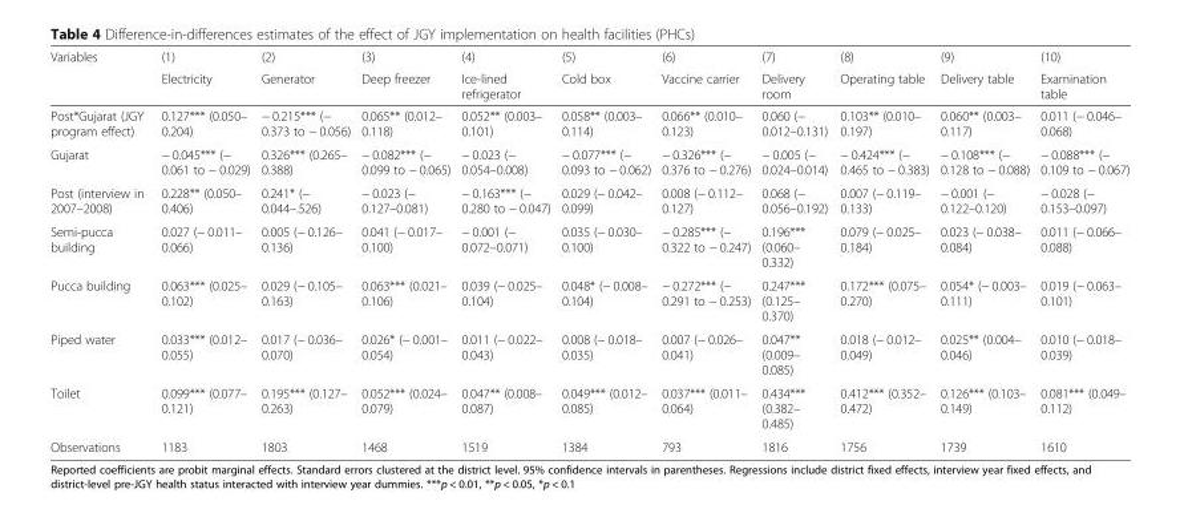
<table><thead><tr><td rowspan="2">Variables</td><td rowspan="2">(1) Electricity</td><td rowspan="2">(2) Generator</td><td rowspan="2">(3) Deep freezer</td><td rowspan="2">(4) Ice-lined refrigerator</td><td rowspan="2">(5) Cold box</td><td rowspan="2">(6) Vaccine carrier</td><td rowspan="2">(7) Delivery room</td><td rowspan="2">(8) Operating table</td><td rowspan="2">(9) Delivery table</td><td rowspan="2">(10) Examination table</td></tr><tr></tr></thead><tbody><tr><td>Post*Gujarat (JGY program effect)</td><td>0.127*** (0.050– 0.204)</td><td>− 0.215*** (− 0.373 to − 0.056)</td><td>0.065** (0.012– 0.118)</td><td>0.052** (0.003– 0.101)</td><td>0.058** (0.003– 0.114)</td><td>0.066** (0.010– 0.123)</td><td>0.060 (− 0.012–0.131)</td><td>0.103** (0.010– 0.197)</td><td>0.060** (0.003– 0.117)</td><td>0.011 (− 0.046– 0.068)</td></tr><tr><td>Gujarat</td><td>− 0.045*** (− 0.061 to − 0.029)</td><td>0.326*** (0.265– 0.388)</td><td>− 0.082*** (− 0.099 to − 0.065)</td><td>− 0.023 (− 0.054–0.008)</td><td>− 0.077*** (− 0.093 to − 0.062)</td><td>− 0.326*** (− 0.376 to − 0.276)</td><td>− 0.005 (− 0.024–0.014)</td><td>− 0.424*** (− 0.465 to − 0.383)</td><td>− 0.108*** (− 0.128 to − 0.088)</td><td>− 0.088*** (− 0.109 to − 0.067)</td></tr><tr><td>Post (interview in 2007–2008)</td><td>0.228** (0.050– 0.406)</td><td>0.241* (− 0.044–.526)</td><td>− 0.023 (− 0.127–0.081)</td><td>− 0.163*** (− 0.280 to − 0.047)</td><td>0.029 (− 0.042– 0.099)</td><td>0.008 (− 0.112– 0.127)</td><td>0.068 (− 0.056–0.192)</td><td>0.007 (− 0.119– 0.133)</td><td>− 0.001 (− 0.122–0.120)</td><td>− 0.028 (− 0.153–0.097)</td></tr><tr><td>Semi-pucca building</td><td>0.027 (− 0.011– 0.066)</td><td>0.005 (− 0.126– 0.136)</td><td>0.041 (− 0.017– 0.100)</td><td>− 0.001 (− 0.072–0.071)</td><td>0.035 (− 0.030– 0.100)</td><td>− 0.285*** (− 0.322 to − 0.247)</td><td>0.196*** (0.060– 0.332)</td><td>0.079 (− 0.025– 0.184)</td><td>0.023 (− 0.038– 0.084)</td><td>0.011 (− 0.066– 0.088)</td></tr><tr><td>Pucca building</td><td>0.063*** (0.025– 0.102)</td><td>0.029 (− 0.105– 0.163)</td><td>0.063*** (0.021– 0.106)</td><td>0.039 (− 0.025– 0.104)</td><td>0.048* (− 0.008– 0.104)</td><td>− 0.272*** (− 0.291 to − 0.253)</td><td>0.247*** (0.125– 0.370)</td><td>0.172*** (0.075– 0.270)</td><td>0.054* (− 0.003– 0.111)</td><td>0.019 (− 0.063– 0.101)</td></tr><tr><td>Piped water</td><td>0.033*** (0.012– 0.055)</td><td>0.017 (− 0.036– 0.070)</td><td>0.026* (− 0.001– 0.054)</td><td>0.011 (− 0.022– 0.043)</td><td>0.008 (− 0.018– 0.035)</td><td>0.007 (− 0.026– 0.041)</td><td>0.047** (0.009– 0.085)</td><td>0.018 (− 0.012– 0.049)</td><td>0.025** (0.004– 0.046)</td><td>0.010 (− 0.018– 0.039)</td></tr><tr><td>Toilet</td><td>0.099*** (0.077– 0.121)</td><td>0.195*** (0.127– 0.263)</td><td>0.052*** (0.024– 0.079)</td><td>0.047** (0.008– 0.087)</td><td>0.049*** (0.012– 0.085)</td><td>0.037*** (0.011– 0.064)</td><td>0.434*** (0.382– 0.485)</td><td>0.412*** (0.352– 0.472)</td><td>0.126*** (0.103– 0.149)</td><td>0.081*** (0.049– 0.112)</td></tr><tr><td>Observations</td><td>1183</td><td>1803</td><td>1468</td><td>1519</td><td>1384</td><td>793</td><td>1816</td><td>1756</td><td>1739</td><td>1610</td></tr></tbody></table>